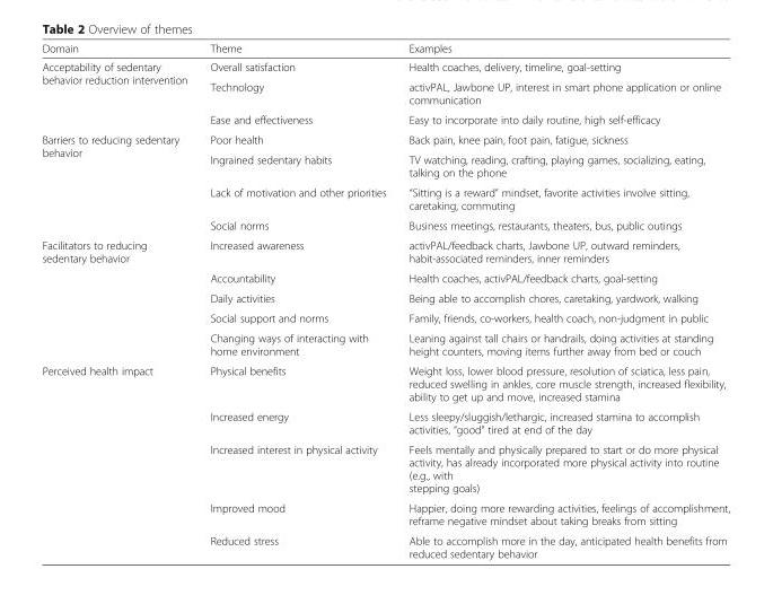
<table><thead><tr><td>Domain</td><td>Theme</td><td>Examples</td></tr></thead><tbody><tr><td rowspan="3">Acceptability of sedentary behavior reduction intervention</td><td>Overall satisfaction</td><td>Health coaches, delivery, timeline, goal-setting</td></tr><tr><td>Technology</td><td>activPAL, Jawbone UP, interest in smart phone application or online communication</td></tr><tr><td>Ease and effectiveness</td><td>Easy to incorporate into daily routine, high self-efficacy</td></tr><tr><td rowspan="4">Barriers to reducing sedentary behavior</td><td>Poor health</td><td>Back pain, knee pain, foot pain, fatigue, sickness</td></tr><tr><td>Ingrained sedentary habits</td><td>TV watching, reading, crafting, playing games, socializing, eating, talking on the phone</td></tr><tr><td>Lack of motivation and other priorities</td><td>“Sitting is a reward” mindset, favorite activities involve sitting, caretaking, commuting</td></tr><tr><td>Social norms</td><td>Business meetings, restaurants, theaters, bus, public outings</td></tr><tr><td rowspan="5">Facilitators to reducing sedentary behavior</td><td>Increased awareness</td><td>activPAL/feedback charts, Jawbone UP, outward reminders, habit-associated reminders, inner reminders</td></tr><tr><td>Accountability</td><td>Health coaches, activPAL/feedback charts, goal-setting</td></tr><tr><td>Daily activities</td><td>Being able to accomplish chores, caretaking, yardwork, walking</td></tr><tr><td>Social support and norms</td><td>Family, friends, co-workers, health coach, non-judgment in public</td></tr><tr><td>Changing ways of interacting with home environment</td><td>Leaning against tall chairs or handrails, doing activities at standing height counters, moving items further away from bed or couch</td></tr><tr><td rowspan="5">Perceived health impact</td><td>Physical benefits</td><td>Weight loss, lower blood pressure, resolution of sciatica, less pain, reduced swelling in ankles, core muscle strength, increased flexibility, ability to get up and move, increased stamina</td></tr><tr><td>Increased energy</td><td>Less sleepy/sluggish/lethargic, increased stamina to accomplish activities, “good” tired at end of the day</td></tr><tr><td>Increased interest in physical activity</td><td>Feels mentally and physically prepared to start or do more physical activity, has already incorporated more physical activity into routine (e.g., with stepping goals)</td></tr><tr><td>Improved mood</td><td>Happier, doing more rewarding activities, feelings of accomplishment, reframe negative mindset about taking breaks from sitting</td></tr><tr><td>Reduced stress</td><td>Able to accomplish more in the day, anticipated health benefits from reduced sedentary behavior</td></tr></tbody></table>